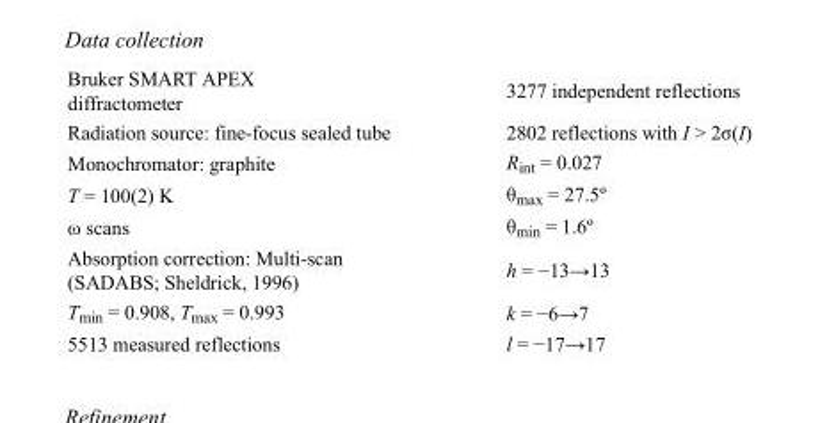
<table><tbody><tr><td>Bruker SMART APEX diffractometer</td><td>3277 independent reflections</td></tr><tr><td>Radiation source: fine-focus sealed tube</td><td>2802 reflections with I &gt; 2σ(I)</td></tr><tr><td>Monochromator: graphite</td><td>R<sub>int</sub> = 0.027</td></tr><tr><td>T = 100(2) K</td><td>θ<sub>max</sub> = 27.5º</td></tr><tr><td>ω scans</td><td>θ<sub>min</sub> = 1.6º</td></tr><tr><td>Absorption correction: Multi-scan (SADABS; Sheldrick, 1996)</td><td>h = −13→13</td></tr><tr><td>T<sub>min</sub> = 0.908, T<sub>max</sub> = 0.993</td><td>k = −6→7</td></tr><tr><td>5513 measured reflections</td><td>l = −17→17</td></tr></tbody></table>